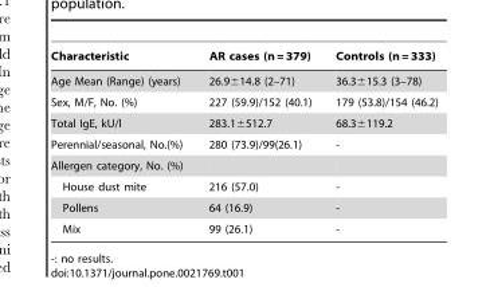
<table><thead><tr><td>Characteristic</td><td>AR cases (n = 379)</td><td>Controls (n = 333)</td></tr></thead><tbody><tr><td>Age Mean (Range) (years)</td><td>26.9±14.8 (2–71)</td><td>36.3±15.3 (3–78)</td></tr><tr><td>Sex, M/F, No. (%)</td><td>227 (59.9)/152 (40.1)</td><td>179 (53.8)/154 (46.2)</td></tr><tr><td>Total IgE, kU/l</td><td>283.1±512.7</td><td>68.3±119.2</td></tr><tr><td>Perennial/seasonal, No.(%)</td><td>280 (73.9)/99(26.1)</td><td>-</td></tr><tr><td colspan="3">Allergen category, No. (%)</td></tr><tr><td>House dust mite</td><td>216 (57.0)</td><td>-</td></tr><tr><td>Pollens</td><td>64 (16.9)</td><td>-</td></tr><tr><td>Mix</td><td>99 (26.1)</td><td>-</td></tr></tbody></table>